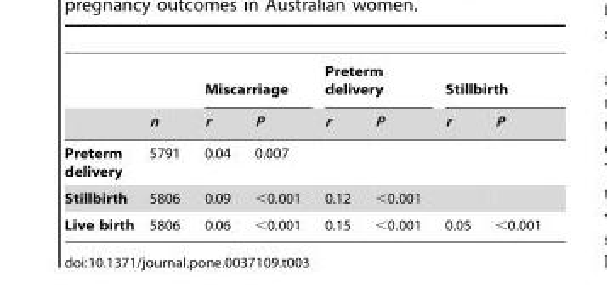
<table><thead><tr><td rowspan="2"></td><td rowspan="2">n</td><td colspan="2">Miscarriage</td><td colspan="2">Preterm delivery</td><td colspan="2">Stillbirth</td></tr><tr><td>r</td><td>P</td><td>r</td><td>P</td><td>r</td><td>P</td></tr></thead><tbody><tr><td>Preterm delivery</td><td>5791</td><td>0.04</td><td>0.007</td><td></td><td></td><td></td><td></td></tr><tr><td>Stillbirth</td><td>5806</td><td>0.09</td><td>&lt;0.001</td><td>0.12</td><td>&lt;0.001</td><td></td><td></td></tr><tr><td>Live birth</td><td>5806</td><td>0.06</td><td>&lt;0.001</td><td>0.15</td><td>&lt;0.001</td><td>0.05</td><td>&lt;0.001</td></tr></tbody></table>